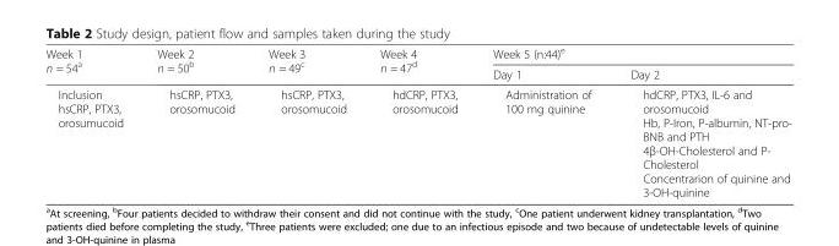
<table><thead><tr><td rowspan="2">Week 1 n = 54<sup>a</sup></td><td rowspan="2">Week 2 n = 50<sup>b</sup></td><td rowspan="2">Week 3 n = 49<sup>c</sup></td><td rowspan="2">Week 4 n = 47<sup>d</sup></td><td colspan="2">Week 5 (n:44)<sup>e</sup></td></tr><tr><td>Day 1</td><td>Day 2</td></tr></thead><tbody><tr><td>Inclusion hsCRP, PTX3, orosumucoid</td><td>hsCRP, PTX3, orosomucoid</td><td>hsCRP, PTX3, orosomucoid</td><td>hdCRP, PTX3, orosomucoid</td><td>Administration of 100 mg quinine</td><td>hdCRP, PTX3, IL-6 and orosomucoid Hb, P-Iron, P-albumin, NT-pro- BNB and PTH 4β-OH-Cholesterol and P- Cholesterol Concentrarion of quinine and 3-OH-quinine</td></tr></tbody></table>